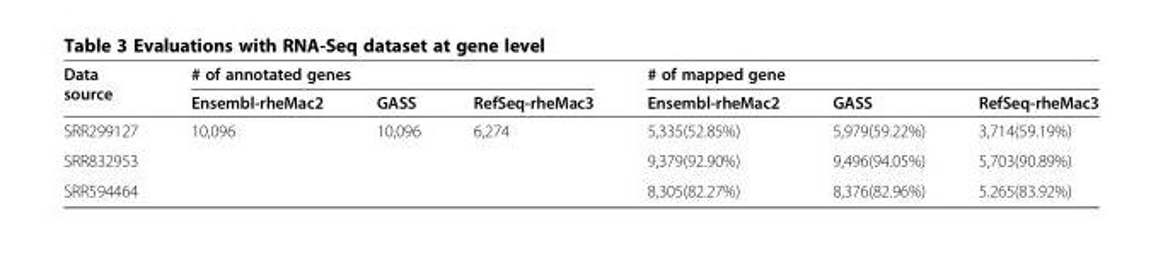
<table><thead><tr><td rowspan="2">Data source</td><td colspan="3"># of annotated genes</td><td colspan="3"># of mapped gene</td></tr><tr><td>Ensembl-rheMac2</td><td>GASS</td><td>RefSeq-rheMac3</td><td>Ensembl-rheMac2</td><td>GASS</td><td>RefSeq-rheMac3</td></tr></thead><tbody><tr><td>SRR299127</td><td rowspan="3">10,096</td><td rowspan="3">10,096</td><td rowspan="3">6,274</td><td>5,335(52.85%)</td><td>5,979(59.22%)</td><td>3,714(59.19%)</td></tr><tr><td>SRR832953</td><td>9,379(92.90%)</td><td>9,496(94.05%)</td><td>5,703(90.89%)</td></tr><tr><td>SRR594464</td><td>8,305(82.27%)</td><td>8,376(82.96%)</td><td>5.265(83.92%)</td></tr></tbody></table>